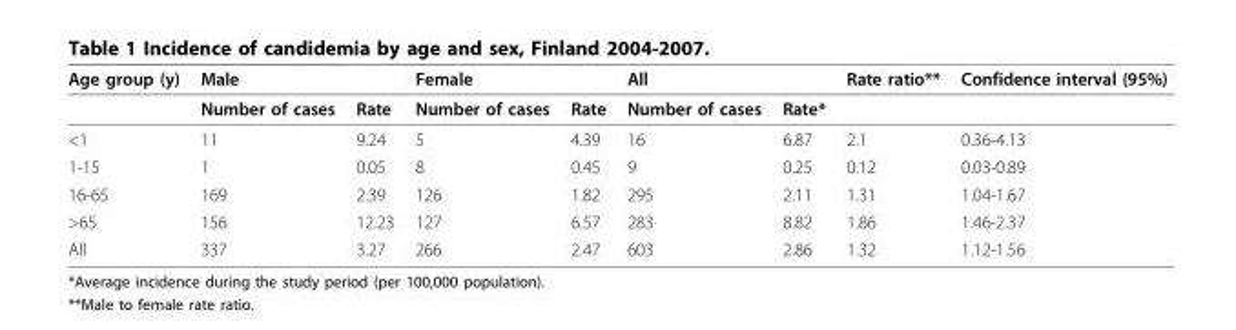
<table><thead><tr><td rowspan="2">Age group (y)</td><td colspan="2">Male</td><td colspan="2">Female</td><td colspan="2">All</td><td rowspan="2">Rate ratio**</td><td rowspan="2">Confidence interval (95%)</td></tr><tr><td>Number of cases</td><td>Rate</td><td>Number of cases</td><td>Rate</td><td>Number of cases</td><td>Rate*</td></tr></thead><tbody><tr><td>&lt;1</td><td>11</td><td>9.24</td><td>5</td><td>4.39</td><td>16</td><td>6.87</td><td>2.1</td><td>0.36-4.13</td></tr><tr><td>1-15</td><td>1</td><td>0.05</td><td>8</td><td>0.45</td><td>9</td><td>0.25</td><td>0.12</td><td>0.03-0.89</td></tr><tr><td>16-65</td><td>169</td><td>2.39</td><td>126</td><td>1.82</td><td>295</td><td>2.11</td><td>1.31</td><td>1.04-1.67</td></tr><tr><td>&gt;65</td><td>156</td><td>12.23</td><td>127</td><td>6.57</td><td>283</td><td>8.82</td><td>1.86</td><td>1.46-2.37</td></tr><tr><td>All</td><td>337</td><td>3.27</td><td>266</td><td>2.47</td><td>603</td><td>2.86</td><td>1.32</td><td>1.12-1.56</td></tr></tbody></table>